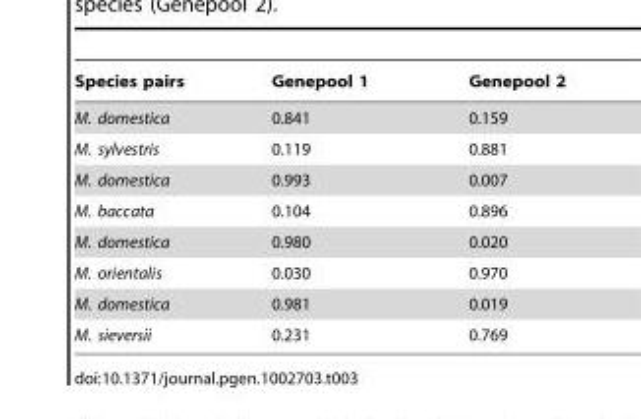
<table><thead><tr><td>Species pairs</td><td>Genepool 1</td><td>Genepool 2</td></tr></thead><tbody><tr><td>M. domestica</td><td>0.841</td><td>0.159</td></tr><tr><td>M. sylvestris</td><td>0.119</td><td>0.881</td></tr><tr><td>M. domestica</td><td>0.993</td><td>0.007</td></tr><tr><td>M. baccata</td><td>0.104</td><td>0.896</td></tr><tr><td>M. domestica</td><td>0.980</td><td>0.020</td></tr><tr><td>M. orientalis</td><td>0.030</td><td>0.970</td></tr><tr><td>M. domestica</td><td>0.981</td><td>0.019</td></tr><tr><td>M. sieversii</td><td>0.231</td><td>0.769</td></tr></tbody></table>